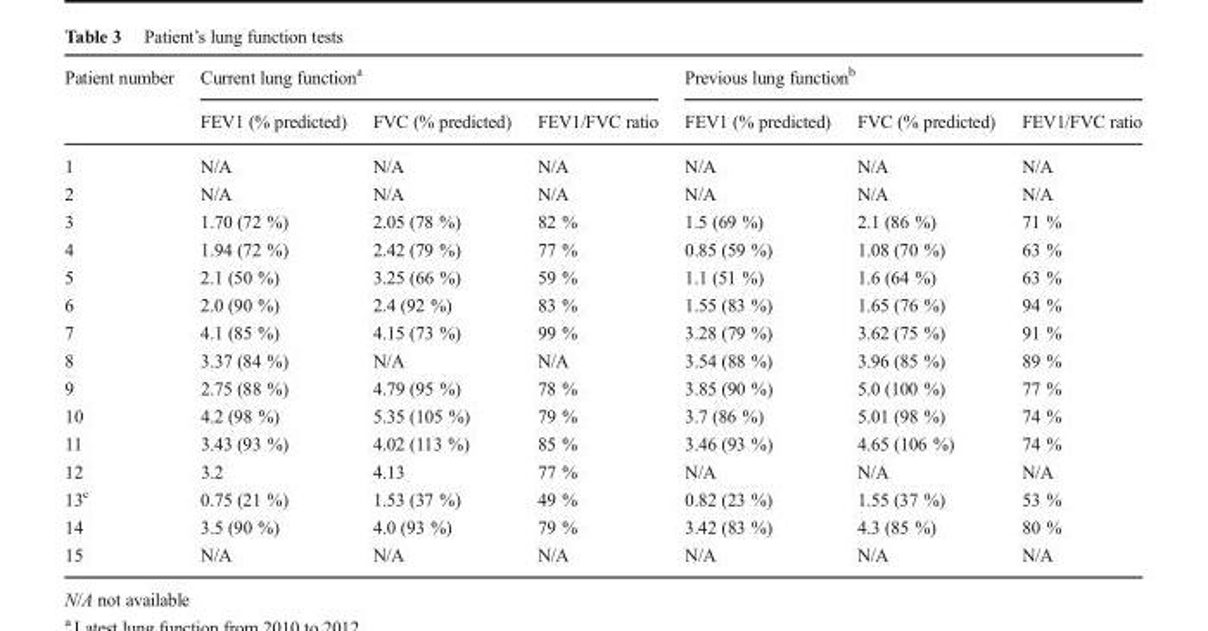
<table><thead><tr><td rowspan="2">Patient number</td><td colspan="3">Current lung function<sup>a</sup></td><td colspan="3">Previous lung function<sup>b</sup></td></tr><tr><td>FEV1 (% predicted)</td><td>FVC (% predicted)</td><td>FEV1/FVC ratio</td><td>FEV1 (% predicted)</td><td>FVC (% predicted)</td><td>FEV1/FVC ratio</td></tr></thead><tbody><tr><td>1</td><td>N/A</td><td>N/A</td><td>N/A</td><td>N/A</td><td>N/A</td><td>N/A</td></tr><tr><td>2</td><td>N/A</td><td>N/A</td><td>N/A</td><td>N/A</td><td>N/A</td><td>N/A</td></tr><tr><td>3</td><td>1.70 (72 %)</td><td>2.05 (78 %)</td><td>82 %</td><td>1.5 (69 %)</td><td>2.1 (86 %)</td><td>71 %</td></tr><tr><td>4</td><td>1.94 (72 %)</td><td>2.42 (79 %)</td><td>77 %</td><td>0.85 (59 %)</td><td>1.08 (70 %)</td><td>63 %</td></tr><tr><td>5</td><td>2.1 (50 %)</td><td>3.25 (66 %)</td><td>59 %</td><td>1.1 (51 %)</td><td>1.6 (64 %)</td><td>63 %</td></tr><tr><td>6</td><td>2.0 (90 %)</td><td>2.4 (92 %)</td><td>83 %</td><td>1.55 (83 %)</td><td>1.65 (76 %)</td><td>94 %</td></tr><tr><td>7</td><td>4.1 (85 %)</td><td>4.15 (73 %)</td><td>99 %</td><td>3.28 (79 %)</td><td>3.62 (75 %)</td><td>91 %</td></tr><tr><td>8</td><td>3.37 (84 %)</td><td>N/A</td><td>N/A</td><td>3.54 (88 %)</td><td>3.96 (85 %)</td><td>89 %</td></tr><tr><td>9</td><td>2.75 (88 %)</td><td>4.79 (95 %)</td><td>78 %</td><td>3.85 (90 %)</td><td>5.0 (100 %)</td><td>77 %</td></tr><tr><td>10</td><td>4.2 (98 %)</td><td>5.35 (105 %)</td><td>79 %</td><td>3.7 (86 %)</td><td>5.01 (98 %)</td><td>74 %</td></tr><tr><td>11</td><td>3.43 (93 %)</td><td>4.02 (113 %)</td><td>85 %</td><td>3.46 (93 %)</td><td>4.65 (106 %)</td><td>74 %</td></tr><tr><td>12</td><td>3.2</td><td>4.13</td><td>77 %</td><td>N/A</td><td>N/A</td><td>N/A</td></tr><tr><td>13<sup>c</sup></td><td>0.75 (21 %)</td><td>1.53 (37 %)</td><td>49 %</td><td>0.82 (23 %)</td><td>1.55 (37 %)</td><td>53 %</td></tr><tr><td>14</td><td>3.5 (90 %)</td><td>4.0 (93 %)</td><td>79 %</td><td>3.42 (83 %)</td><td>4.3 (85 %)</td><td>80 %</td></tr><tr><td>15</td><td>N/A</td><td>N/A</td><td>N/A</td><td>N/A</td><td>N/A</td><td>N/A</td></tr></tbody></table>